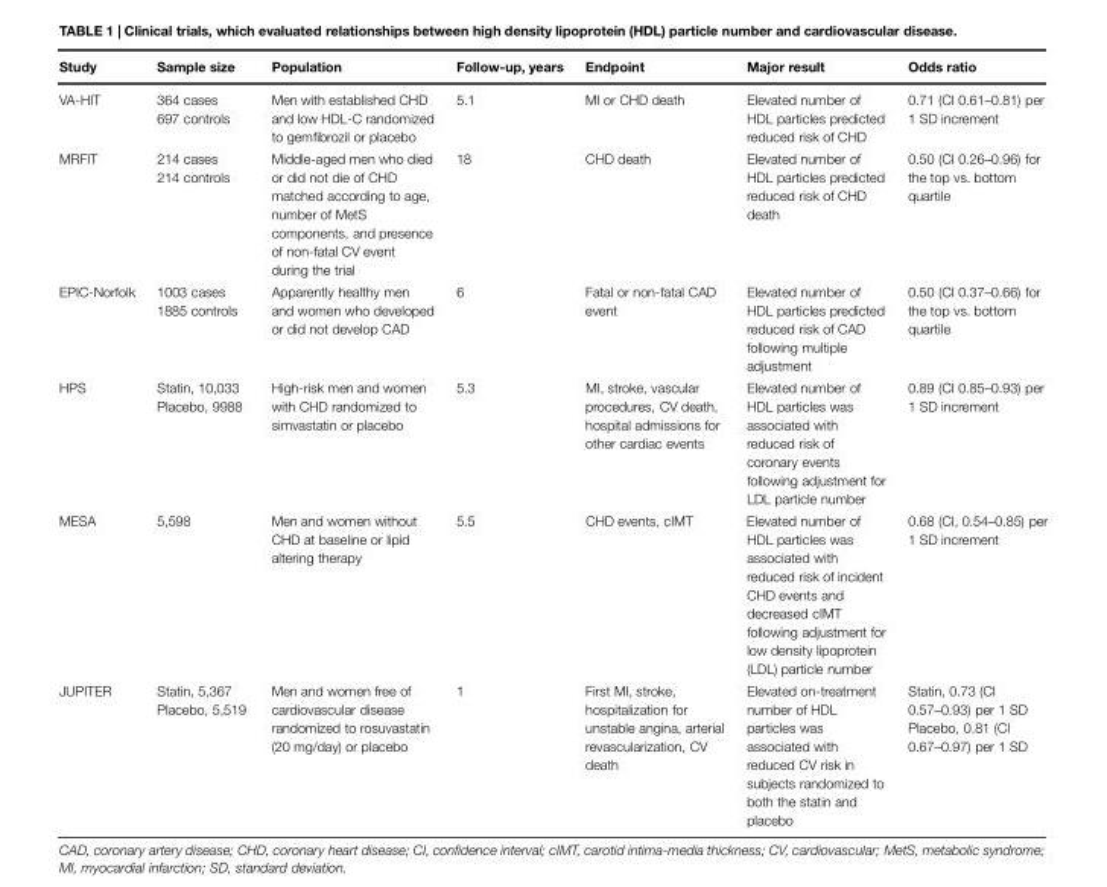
<table><thead><tr><td>Study</td><td>Sample size</td><td>Population</td><td>Follow-up, years</td><td>Endpoint</td><td>Major result</td><td>Odds ratio</td></tr></thead><tbody><tr><td>VA-HIT</td><td>364 cases 697 controls</td><td>Men with established CHD and low HDL-C randomized to gemfibrozil or placebo</td><td>5.1</td><td>MI or CHD death</td><td>Elevated number of HDL particles predicted reduced risk of CHD</td><td>0.71 (CI 0.61–0.81) per 1 SD increment</td></tr><tr><td>MRFIT</td><td>214 cases 214 controls</td><td>Middle-aged men who died or did not die of CHD matched according to age, number of MetS components, and presence of non-fatal CV event during the trial</td><td>18</td><td>CHD death</td><td>Elevated number of HDL particles predicted reduced risk of CHD death</td><td>0.50 (CI 0.26–0.96) for the top vs. bottom quartile</td></tr><tr><td>EPIC-Norfolk</td><td>1003 cases 1885 controls</td><td>Apparently healthy men and women who developed or did not develop CAD</td><td>6</td><td>Fatal or non-fatal CAD event</td><td>Elevated number of HDL particles predicted reduced risk of CAD following multiple adjustment</td><td>0.50 (CI 0.37–0.66) for the top vs. bottom quartile</td></tr><tr><td>HPS</td><td>Statin, 10,033 Placebo, 9988</td><td>High-risk men and women with CHD randomized to simvastatin or placebo</td><td>5.3</td><td>MI, stroke, vascular procedures, CV death, hospital admissions for other cardiac events</td><td>Elevated number of HDL particles was associated with reduced risk of coronary events following adjustment for LDL particle number</td><td>0.89 (CI 0.85–0.93) per 1 SD increment</td></tr><tr><td>MESA</td><td>5,598</td><td>Men and women without CHD at baseline or lipid altering therapy</td><td>5.5</td><td>CHD events, cIMT</td><td>Elevated number of HDL particles was associated with reduced risk of incident CHD events and decreased cIMT following adjustment for low density lipoprotein (LDL) particle number</td><td>0.68 (CI, 0.54–0.85) per 1 SD increment</td></tr><tr><td>JUPITER</td><td>Statin, 5,367 Placebo, 5,519</td><td>Men and women free of cardiovascular disease randomized to rosuvastatin (20 mg/day) or placebo</td><td>1</td><td>First MI, stroke, hospitalization for unstable angina, arterial revascularization, CV death</td><td>Elevated on-treatment number of HDL particles was associated with reduced CV risk in subjects randomized to both the statin and placebo</td><td>Statin, 0.73 (CI 0.57–0.93) per 1 SD Placebo, 0.81 (CI 0.67–0.97) per 1 SD</td></tr></tbody></table>